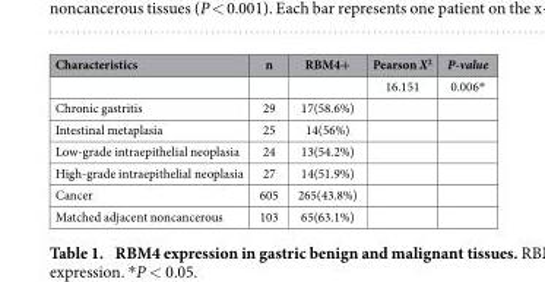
<table><thead><tr><td>Characteristics</td><td>n</td><td>RBM4+</td><td>Pearson X<sup>2</sup></td><td>P-value</td></tr></thead><tbody><tr><td></td><td></td><td></td><td>16.151</td><td>0.006*</td></tr><tr><td>Chronic gastritis</td><td>29</td><td>17(58.6%)</td><td></td><td></td></tr><tr><td>Intestinal metaplasia</td><td>25</td><td>14(56%)</td><td></td><td></td></tr><tr><td>Low-grade intraepithelial neoplasia</td><td>24</td><td>13(54.2%)</td><td></td><td></td></tr><tr><td>High-grade intraepithelial neoplasia</td><td>27</td><td>14(51.9%)</td><td></td><td></td></tr><tr><td>Cancer</td><td>605</td><td>265(43.8%)</td><td></td><td></td></tr><tr><td>Matched adjacent noncancerous</td><td>103</td><td>65(63.1%)</td><td></td><td></td></tr></tbody></table>